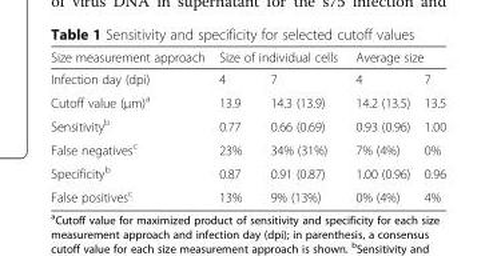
<table><thead><tr><td rowspan="2">Size measurement approach Infection day (dpi)</td><td colspan="2">Size of individual cells</td><td colspan="2">Average size</td></tr><tr><td>4</td><td>7</td><td>4</td><td>7</td></tr></thead><tbody><tr><td>Cutoff value (μm)<sup>a</sup></td><td>13.9</td><td>14.3 (13.9)</td><td>14.2 (13.5)</td><td>13.5</td></tr><tr><td>Sensitivity<sup>b</sup></td><td>0.77</td><td>0.66 (0.69)</td><td>0.93 (0.96)</td><td>1.00</td></tr><tr><td>False negatives<sup>c</sup></td><td>23%</td><td>34% (31%)</td><td>7% (4%)</td><td>0%</td></tr><tr><td>Specificity<sup>b</sup></td><td>0.87</td><td>0.91 (0.87)</td><td>1.00 (0.96)</td><td>0.96</td></tr><tr><td>False positives<sup>c</sup></td><td>13%</td><td>9% (13%)</td><td>0% (4%)</td><td>4%</td></tr></tbody></table>